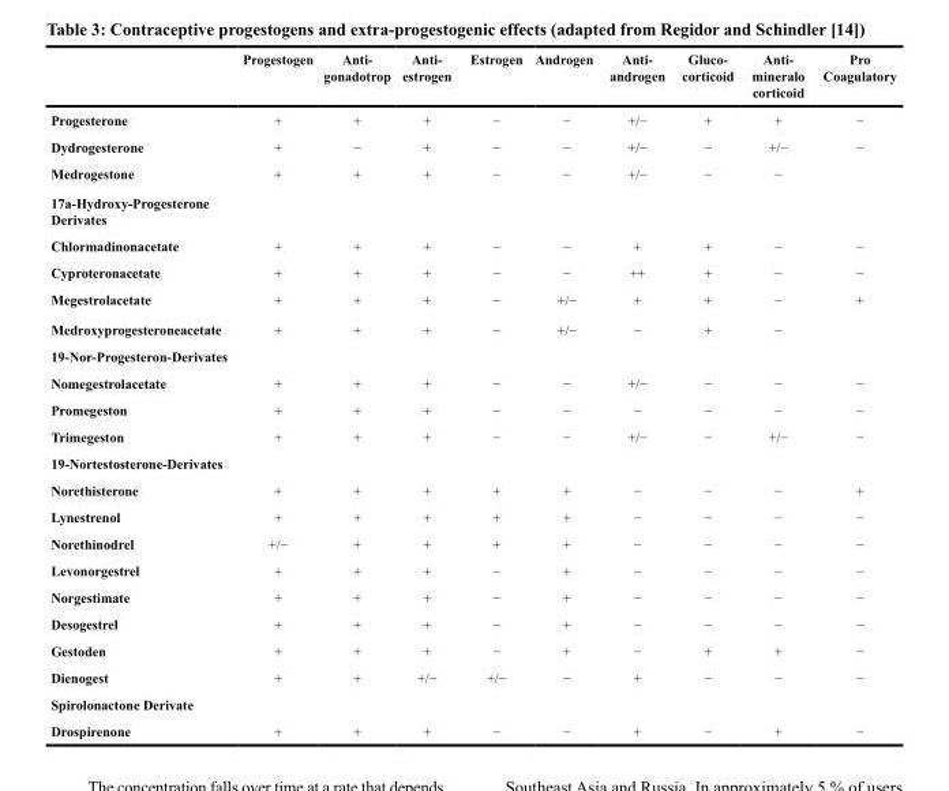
<table><thead><tr><td></td><td>Progestogen</td><td>Anti- gonadotrop</td><td>Anti- estrogen</td><td>Estrogen</td><td>Androgen</td><td>Anti- androgen</td><td>Gluco- corticoid</td><td>Anti- mineralo corticoid</td><td>Pro Coagulatory</td></tr></thead><tbody><tr><td>Progesterone</td><td>+</td><td>+</td><td>+</td><td>−</td><td>−</td><td>+/−</td><td>+</td><td>+</td><td>−</td></tr><tr><td>Dydrogesterone</td><td>+</td><td>−</td><td>+</td><td>−</td><td>−</td><td>+/−</td><td>−</td><td>+/−</td><td>−</td></tr><tr><td>Medrogestone</td><td>+</td><td>+</td><td>+</td><td>−</td><td>−</td><td>+/−</td><td>−</td><td>−</td><td></td></tr><tr><td colspan="10">17a-Hydroxy-Progesterone Derivates</td></tr><tr><td>Chlormadinonacetate</td><td>+</td><td>+</td><td>+</td><td>−</td><td>−</td><td>+</td><td>+</td><td>−</td><td>−</td></tr><tr><td>Cyproteronacetate</td><td>+</td><td>+</td><td>+</td><td>−</td><td>−</td><td>++</td><td>+</td><td>−</td><td>−</td></tr><tr><td>Megestrolacetate</td><td>+</td><td>+</td><td>+</td><td>−</td><td>+/−</td><td>+</td><td>+</td><td>−</td><td>+</td></tr><tr><td>Medroxyprogesteroneacetate</td><td>+</td><td>+</td><td>+</td><td>−</td><td>+/−</td><td>−</td><td>+</td><td>−</td><td></td></tr><tr><td colspan="10">19-Nor-Progesteron-Derivates</td></tr><tr><td>Nomegestrolacetate</td><td>+</td><td>+</td><td>+</td><td>−</td><td>−</td><td>+/−</td><td>−</td><td>−</td><td>−</td></tr><tr><td>Promegeston</td><td>+</td><td>+</td><td>+</td><td>−</td><td>−</td><td>−</td><td>−</td><td>−</td><td>−</td></tr><tr><td>Trimegeston</td><td>+</td><td>+</td><td>+</td><td>−</td><td>−</td><td>+/−</td><td>−</td><td>+/−</td><td>−</td></tr><tr><td colspan="10">19-Nortestosterone-Derivates</td></tr><tr><td>Norethisterone</td><td>+</td><td>+</td><td>+</td><td>+</td><td>+</td><td>−</td><td>−</td><td>−</td><td>+</td></tr><tr><td>Lynestrenol</td><td>+</td><td>+</td><td>+</td><td>+</td><td>+</td><td>−</td><td>−</td><td>−</td><td>−</td></tr><tr><td>Norethinodrel</td><td>+/−</td><td>+</td><td>+</td><td>+</td><td>+</td><td>−</td><td>−</td><td>−</td><td>−</td></tr><tr><td>Levonorgestrel</td><td>+</td><td>+</td><td>+</td><td>−</td><td>+</td><td>−</td><td>−</td><td>−</td><td>−</td></tr><tr><td>Norgestimate</td><td>+</td><td>+</td><td>+</td><td>−</td><td>+</td><td>−</td><td>−</td><td>−</td><td>−</td></tr><tr><td>Desogestrel</td><td>+</td><td>+</td><td>+</td><td>−</td><td>+</td><td>−</td><td>−</td><td>−</td><td>−</td></tr><tr><td>Gestoden</td><td>+</td><td>+</td><td>+</td><td>−</td><td>+</td><td>−</td><td>+</td><td>+</td><td>−</td></tr><tr><td>Dienogest</td><td>+</td><td>+</td><td>+/−</td><td>+/−</td><td>−</td><td>+</td><td>−</td><td>−</td><td>−</td></tr><tr><td colspan="10">Spirolonactone Derivate</td></tr><tr><td>Drospirenone</td><td>+</td><td>+</td><td>+</td><td>−</td><td>−</td><td>+</td><td>−</td><td>+</td><td>−</td></tr></tbody></table>